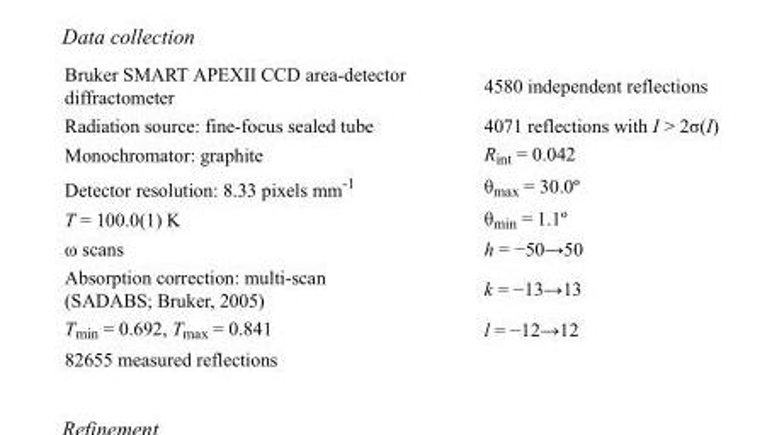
<table><tbody><tr><td>Bruker SMART APEXII CCD area-detector diffractometer</td><td>4580 independent reflections</td></tr><tr><td>Radiation source: fine-focus sealed tube</td><td>4071 reflections with I &gt; 2σ(I)</td></tr><tr><td>Monochromator: graphite</td><td>R<sub>int</sub> = 0.042</td></tr><tr><td>Detector resolution: 8.33 pixels mm<sup>-1</sup></td><td>θ<sub>max</sub> = 30.0º</td></tr><tr><td>T = 100.0(1) K</td><td>θ<sub>min</sub> = 1.1º</td></tr><tr><td>ω scans</td><td>h = −50→50</td></tr><tr><td>Absorption correction: multi-scan (SADABS; Bruker, 2005)</td><td>k = −13→13</td></tr><tr><td>T<sub>min</sub> = 0.692, T<sub>max</sub> = 0.841</td><td>l = −12→12</td></tr><tr><td>82655 measured reflections</td><td></td></tr></tbody></table>